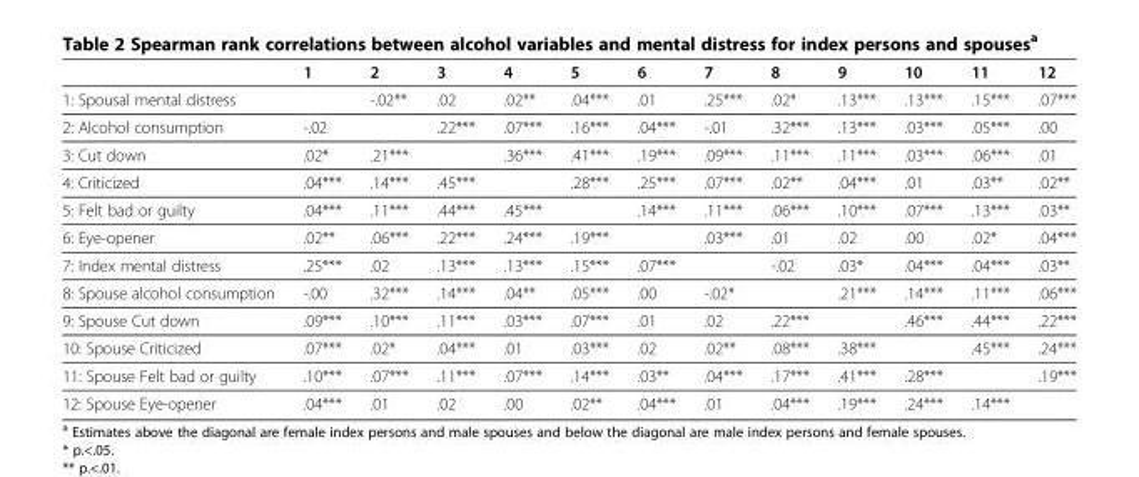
<table><thead><tr><td></td><td>1</td><td>2</td><td>3</td><td>4</td><td>5</td><td>6</td><td>7</td><td>8</td><td>9</td><td>10</td><td>11</td><td>12</td></tr></thead><tbody><tr><td>1: Spousal mental distress</td><td></td><td>-.02**</td><td>.02</td><td>.02**</td><td>.04***</td><td>.01</td><td>.25***</td><td>.02*</td><td>.13***</td><td>.13***</td><td>.15***</td><td>.07***</td></tr><tr><td>2: Alcohol consumption</td><td>-.02</td><td></td><td>.22***</td><td>.07***</td><td>.16***</td><td>.04***</td><td>-.01</td><td>.32***</td><td>.13***</td><td>.03***</td><td>.05***</td><td>.00</td></tr><tr><td>3: Cut down</td><td>.02*</td><td>.21***</td><td></td><td>.36***</td><td>.41***</td><td>.19***</td><td>.09***</td><td>.11***</td><td>.11***</td><td>.03***</td><td>.06***</td><td>.01</td></tr><tr><td>4: Criticized</td><td>.04***</td><td>.14***</td><td>.45***</td><td></td><td>.28***</td><td>.25***</td><td>.07***</td><td>.02**</td><td>.04***</td><td>.01</td><td>.03**</td><td>.02**</td></tr><tr><td>5: Felt bad or guilty</td><td>.04***</td><td>.11***</td><td>.44***</td><td>.45***</td><td></td><td>.14***</td><td>.11***</td><td>.06***</td><td>.10***</td><td>.07***</td><td>.13***</td><td>.03**</td></tr><tr><td>6: Eye-opener</td><td>.02**</td><td>.06***</td><td>.22***</td><td>.24***</td><td>.19***</td><td></td><td>.03***</td><td>.01</td><td>.02</td><td>.00</td><td>.02*</td><td>.04***</td></tr><tr><td>7: Index mental distress</td><td>.25***</td><td>.02</td><td>.13***</td><td>.13***</td><td>.15***</td><td>.07***</td><td></td><td>-.02</td><td>.03*</td><td>.04***</td><td>.04***</td><td>.03**</td></tr><tr><td>8: Spouse alcohol consumption</td><td>-.00</td><td>.32***</td><td>.14***</td><td>.04**</td><td>.05***</td><td>.00</td><td>-.02*</td><td></td><td>.21***</td><td>.14***</td><td>.11***</td><td>.06***</td></tr><tr><td>9: Spouse Cut down</td><td>.09***</td><td>.10***</td><td>.11***</td><td>.03***</td><td>.07***</td><td>.01</td><td>.02</td><td>.22***</td><td></td><td>.46***</td><td>.44***</td><td>.22***</td></tr><tr><td>10: Spouse Criticized</td><td>.07***</td><td>.02*</td><td>.04***</td><td>.01</td><td>.03***</td><td>.02</td><td>.02**</td><td>.08***</td><td>.38***</td><td></td><td>.45***</td><td>.24***</td></tr><tr><td>11: Spouse Felt bad or guilty</td><td>.10***</td><td>.07***</td><td>.11***</td><td>.07***</td><td>.14***</td><td>.03**</td><td>.04***</td><td>.17***</td><td>.41***</td><td>.28***</td><td></td><td>.19***</td></tr><tr><td>12: Spouse Eye-opener</td><td>.04***</td><td>.01</td><td>.02</td><td>.00</td><td>.02**</td><td>.04***</td><td>.01</td><td>.04***</td><td>.19***</td><td>.24***</td><td>.14***</td><td></td></tr></tbody></table>